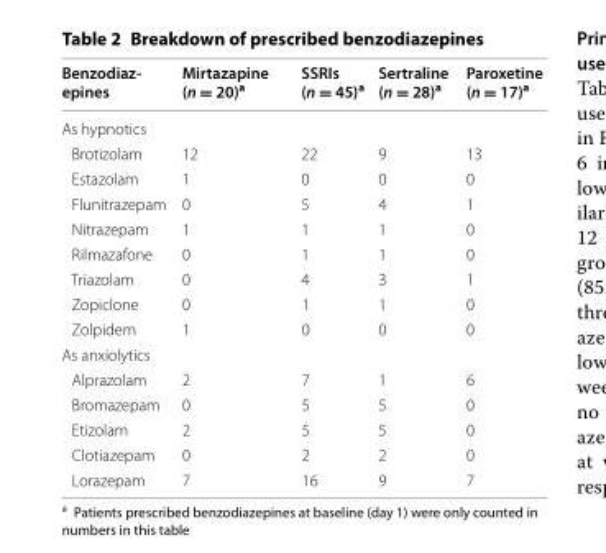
<table><thead><tr><td>Benzodiaz- epines</td><td>Mirtazapine (n = 20)<sup>a</sup></td><td>SSRIs (n = 45)<sup>a</sup></td><td>Sertraline (n = 28)<sup>a</sup></td><td>Paroxetine (n = 17)<sup>a</sup></td></tr></thead><tbody><tr><td colspan="5">As hypnotics</td></tr><tr><td>Brotizolam</td><td>12</td><td>22</td><td>9</td><td>13</td></tr><tr><td>Estazolam</td><td>1</td><td>0</td><td>0</td><td>0</td></tr><tr><td>Flunitrazepam</td><td>0</td><td>5</td><td>4</td><td>1</td></tr><tr><td>Nitrazepam</td><td>1</td><td>1</td><td>1</td><td>0</td></tr><tr><td>Rilmazafone</td><td>0</td><td>1</td><td>1</td><td>0</td></tr><tr><td>Triazolam</td><td>0</td><td>4</td><td>3</td><td>1</td></tr><tr><td>Zopiclone</td><td>0</td><td>1</td><td>1</td><td>0</td></tr><tr><td>Zolpidem</td><td>1</td><td>0</td><td>0</td><td>0</td></tr><tr><td colspan="5">As anxiolytics</td></tr><tr><td>Alprazolam</td><td>2</td><td>7</td><td>1</td><td>6</td></tr><tr><td>Bromazepam</td><td>0</td><td>5</td><td>5</td><td>0</td></tr><tr><td>Etizolam</td><td>2</td><td>5</td><td>5</td><td>0</td></tr><tr><td>Clotiazepam</td><td>0</td><td>2</td><td>2</td><td>0</td></tr><tr><td>Lorazepam</td><td>7</td><td>16</td><td>9</td><td>7</td></tr></tbody></table>